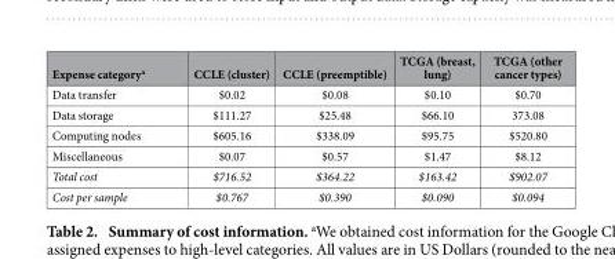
<table><thead><tr><td>Expense category<sup>a</sup></td><td>CCLE (cluster)</td><td>CCLE (preemptible)</td><td>TCGA (breast, lung)</td><td>TCGA (other cancer types)</td></tr></thead><tbody><tr><td>Data transfer</td><td>$0.02</td><td>$0.08</td><td>$0.10</td><td>$0.70</td></tr><tr><td>Data storage</td><td>$111.27</td><td>$25.48</td><td>$66.10</td><td>373.08</td></tr><tr><td>Computing nodes</td><td>$605.16</td><td>$338.09</td><td>$95.75</td><td>$520.80</td></tr><tr><td>Miscellaneous</td><td>$0.07</td><td>$0.57</td><td>$1.47</td><td>$8.12</td></tr><tr><td>Total cost</td><td>$716.52</td><td>$364.22</td><td>$163.42</td><td>$902.07</td></tr><tr><td>Cost per sample</td><td>$0.767</td><td>$0.390</td><td>$0.090</td><td>$0.094</td></tr></tbody></table>